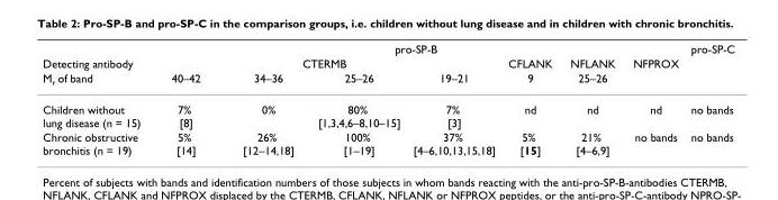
<table><thead><tr><td rowspan="3">Detecting antibody M<sub>r</sub> of band</td><td colspan="7">pro-SP-B</td><td rowspan="3">pro-SP-C</td></tr><tr><td colspan="4">CTERMB</td><td rowspan="2">CFLANK 9</td><td rowspan="2">NFLANK 25–26</td><td rowspan="2">NFPROX</td></tr><tr><td>40–42</td><td>34–36</td><td>25–26</td><td>19–21</td></tr></thead><tbody><tr><td>Children without lung disease (n = 15)</td><td>7% [8]</td><td>0%</td><td>80% [1,3,4,6–8,10–15]</td><td>7% [3]</td><td>nd</td><td>nd</td><td>nd</td><td>no bands</td></tr><tr><td>Chronic obstructive bronchitis (n = 19)</td><td>5% [14]</td><td>26% [12–14,18]</td><td>100% [1–19]</td><td>37% [4–6,10,13,15,18]</td><td>5% [15]</td><td>21% [4–6,9]</td><td>no bands</td><td>no bands</td></tr></tbody></table>